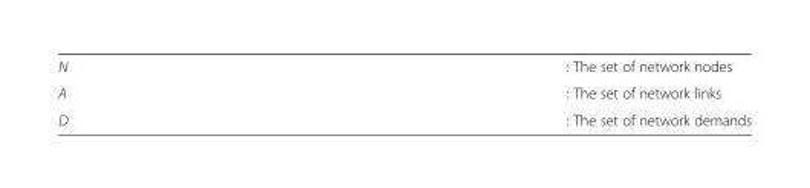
<table><tbody><tr><td>N</td><td>: The set of network nodes</td></tr><tr><td>A</td><td>: The set of network links</td></tr><tr><td>D</td><td>: The set of network demands</td></tr></tbody></table>